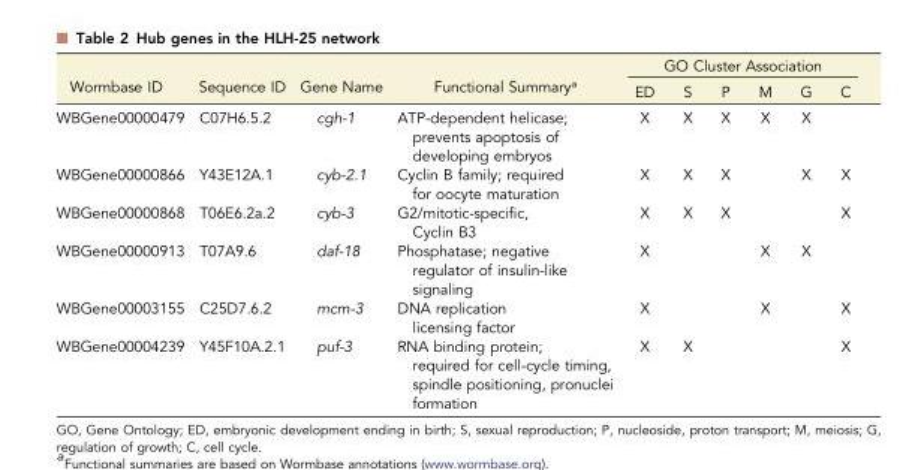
<table><thead><tr><td rowspan="2">Wormbase ID</td><td rowspan="2">Sequence ID</td><td rowspan="2">Gene Name</td><td rowspan="2">Functional Summary<sup>a</sup></td><td colspan="6">GO Cluster Association</td></tr><tr><td>ED</td><td>S</td><td>P</td><td>M</td><td>G</td><td>C</td></tr></thead><tbody><tr><td>WBGene00000479</td><td>C07H6.5.2</td><td>cgh-1</td><td>ATP-dependent helicase; prevents apoptosis of developing embryos</td><td>X</td><td>X</td><td>X</td><td>X</td><td>X</td><td></td></tr><tr><td>WBGene00000866</td><td>Y43E12A.1</td><td>cyb-2.1</td><td>Cyclin B family; required for oocyte maturation</td><td>X</td><td>X</td><td>X</td><td></td><td>X</td><td>X</td></tr><tr><td>WBGene00000868</td><td>T06E6.2a.2</td><td>cyb-3</td><td>G2/mitotic-specific, Cyclin B3</td><td>X</td><td>X</td><td>X</td><td></td><td></td><td>X</td></tr><tr><td>WBGene00000913</td><td>T07A9.6</td><td>daf-18</td><td>Phosphatase; negative regulator of insulin-like signaling</td><td>X</td><td></td><td></td><td>X</td><td>X</td><td></td></tr><tr><td>WBGene00003155</td><td>C25D7.6.2</td><td>mcm-3</td><td>DNA replication licensing factor</td><td>X</td><td></td><td></td><td>X</td><td></td><td>X</td></tr><tr><td>WBGene00004239</td><td>Y45F10A.2.1</td><td>puf-3</td><td>RNA binding protein; required for cell-cycle timing, spindle positioning, pronuclei formation</td><td>X</td><td>X</td><td></td><td></td><td></td><td>X</td></tr></tbody></table>